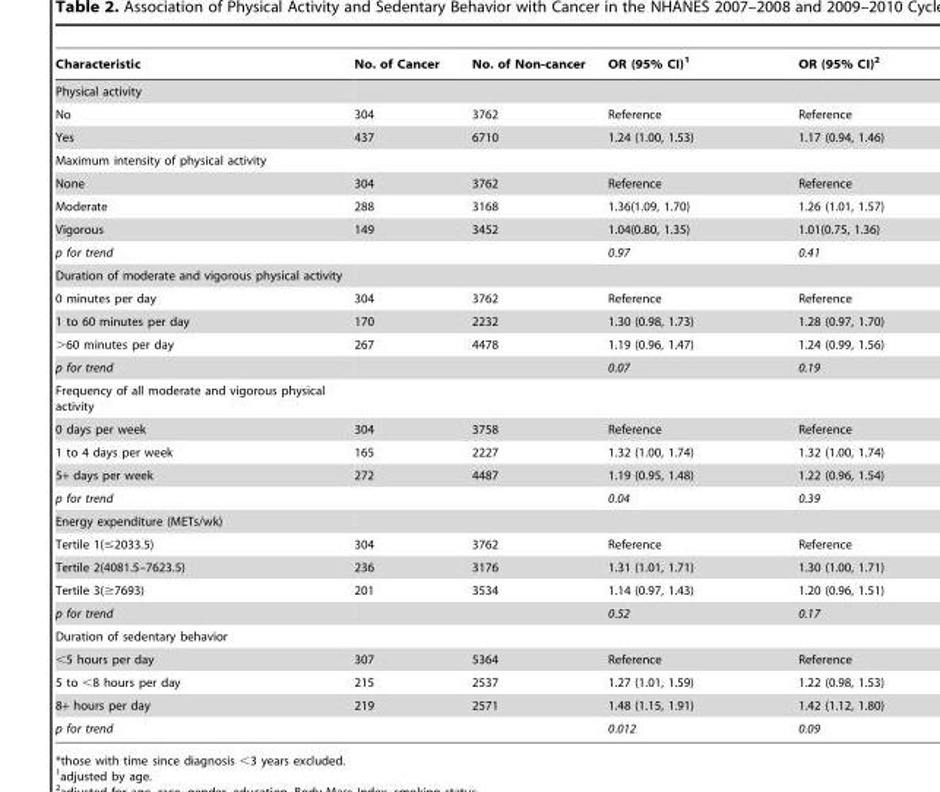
<table><thead><tr><td>Characteristic</td><td>No. of Cancer</td><td>No. of Non-cancer</td><td>OR (95% CI)<sup>1</sup></td><td>OR (95% CI)<sup>2</sup></td></tr></thead><tbody><tr><td colspan="5">Physical activity</td></tr><tr><td>No</td><td>304</td><td>3762</td><td>Reference</td><td>Reference</td></tr><tr><td>Yes</td><td>437</td><td>6710</td><td>1.24 (1.00, 1.53)</td><td>1.17 (0.94, 1.46)</td></tr><tr><td colspan="5">Maximum intensity of physical activity</td></tr><tr><td>None</td><td>304</td><td>3762</td><td>Reference</td><td>Reference</td></tr><tr><td>Moderate</td><td>288</td><td>3168</td><td>1.36(1.09, 1.70)</td><td>1.26 (1.01, 1.57)</td></tr><tr><td>Vigorous</td><td>149</td><td>3452</td><td>1.04(0.80, 1.35)</td><td>1.01(0.75, 1.36)</td></tr><tr><td>p for trend</td><td></td><td></td><td>0.97</td><td>0.41</td></tr><tr><td colspan="5">Duration of moderate and vigorous physical activity</td></tr><tr><td>0 minutes per day</td><td>304</td><td>3762</td><td>Reference</td><td>Reference</td></tr><tr><td>1 to 60 minutes per day</td><td>170</td><td>2232</td><td>1.30 (0.98, 1.73)</td><td>1.28 (0.97, 1.70)</td></tr><tr><td>&gt;60 minutes per day</td><td>267</td><td>4478</td><td>1.19 (0.96, 1.47)</td><td>1.24 (0.99, 1.56)</td></tr><tr><td>p for trend</td><td></td><td></td><td>0.07</td><td>0.19</td></tr><tr><td colspan="5">Frequency of all moderate and vigorous physical activity</td></tr><tr><td>0 days per week</td><td>304</td><td>3758</td><td>Reference</td><td>Reference</td></tr><tr><td>1 to 4 days per week</td><td>165</td><td>2227</td><td>1.32 (1.00, 1.74)</td><td>1.32 (1.00, 1.74)</td></tr><tr><td>5+ days per week</td><td>272</td><td>4487</td><td>1.19 (0.95, 1.48)</td><td>1.22 (0.96, 1.54)</td></tr><tr><td>p for trend</td><td></td><td></td><td>0.04</td><td>0.39</td></tr><tr><td colspan="5">Energy expenditure (METs/wk)</td></tr><tr><td>Tertile 1(≤2033.5)</td><td>304</td><td>3762</td><td>Reference</td><td>Reference</td></tr><tr><td>Tertile 2(4081.5–7623.5)</td><td>236</td><td>3176</td><td>1.31 (1.01, 1.71)</td><td>1.30 (1.00, 1.71)</td></tr><tr><td>Tertile 3(≥7693)</td><td>201</td><td>3534</td><td>1.14 (0.97, 1.43)</td><td>1.20 (0.96, 1.51)</td></tr><tr><td>p for trend</td><td></td><td></td><td>0.52</td><td>0.17</td></tr><tr><td colspan="5">Duration of sedentary behavior</td></tr><tr><td>&lt;5 hours per day</td><td>307</td><td>5364</td><td>Reference</td><td>Reference</td></tr><tr><td>5 to &lt;8 hours per day</td><td>215</td><td>2537</td><td>1.27 (1.01, 1.59)</td><td>1.22 (0.98, 1.53)</td></tr><tr><td>8+ hours per day</td><td>219</td><td>2571</td><td>1.48 (1.15, 1.91)</td><td>1.42 (1.12, 1.80)</td></tr><tr><td>p for trend</td><td></td><td></td><td>0.012</td><td>0.09</td></tr></tbody></table>